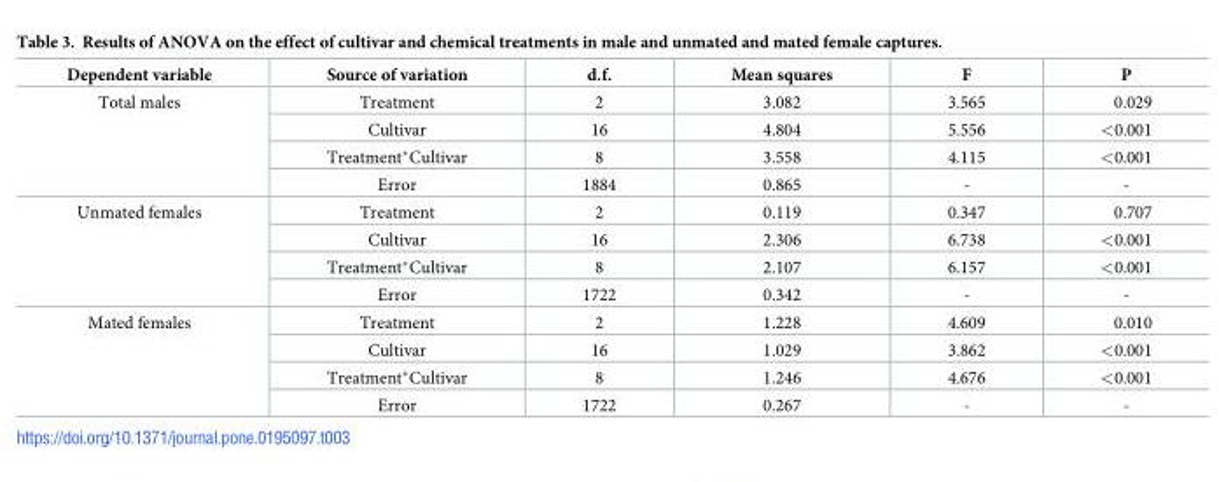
<table><thead><tr><td>Dependent variable</td><td>Source of variation</td><td>d.f.</td><td>Mean squares</td><td>F</td><td>P</td></tr></thead><tbody><tr><td rowspan="4">Total males</td><td>Treatment</td><td>2</td><td>3.082</td><td>3.565</td><td>0.029</td></tr><tr><td>Cultivar</td><td>16</td><td>4.804</td><td>5.556</td><td>&lt;0.001</td></tr><tr><td>Treatment*Cultivar</td><td>8</td><td>3.558</td><td>4.115</td><td>&lt;0.001</td></tr><tr><td>Error</td><td>1884</td><td>0.865</td><td>-</td><td>-</td></tr><tr><td rowspan="4">Unmated females</td><td>Treatment</td><td>2</td><td>0.119</td><td>0.347</td><td>0.707</td></tr><tr><td>Cultivar</td><td>16</td><td>2.306</td><td>6.738</td><td>&lt;0.001</td></tr><tr><td>Treatment*Cultivar</td><td>8</td><td>2.107</td><td>6.157</td><td>&lt;0.001</td></tr><tr><td>Error</td><td>1722</td><td>0.342</td><td>-</td><td>-</td></tr><tr><td rowspan="4">Mated females</td><td>Treatment</td><td>2</td><td>1.228</td><td>4.609</td><td>0.010</td></tr><tr><td>Cultivar</td><td>16</td><td>1.029</td><td>3.862</td><td>&lt;0.001</td></tr><tr><td>Treatment*Cultivar</td><td>8</td><td>1.246</td><td>4.676</td><td>&lt;0.001</td></tr><tr><td>Error</td><td>1722</td><td>0.267</td><td>-</td><td>-</td></tr></tbody></table>